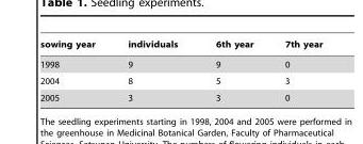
<table><thead><tr><td>sowing year</td><td>individuals</td><td>6th year</td><td>7th year</td></tr></thead><tbody><tr><td>1998</td><td>9</td><td>9</td><td>0</td></tr><tr><td>2004</td><td>8</td><td>5</td><td>3</td></tr><tr><td>2005</td><td>3</td><td>3</td><td>0</td></tr></tbody></table>